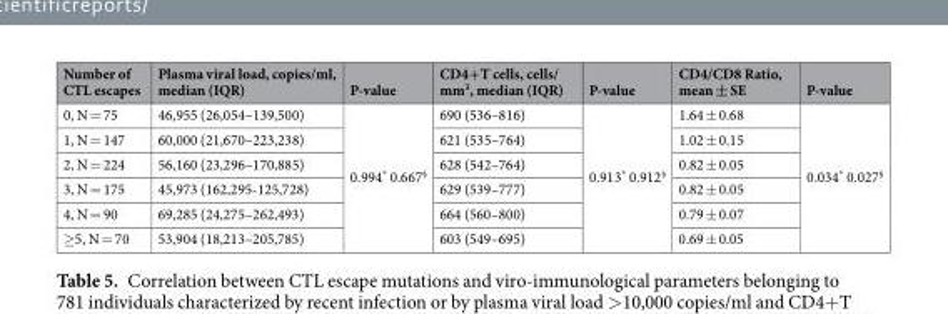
<table><thead><tr><td>Number of CTL escapes</td><td>Plasma viral load, copies/ml, median (IQR)</td><td>P-value</td><td>CD4+T cells, cells/ mm<sup>3</sup>, median (IQR)</td><td>P-value</td><td>CD4/CD8 Ratio, mean ± SE</td><td>P-value</td></tr></thead><tbody><tr><td>0, N = 75</td><td>46,955 (26,054–139,500)</td><td rowspan="6">0.994* 0.667<sup>§</sup></td><td>690 (536–816)</td><td rowspan="6">0.913* 0.912<sup>§</sup></td><td>1.64 ± 0.68</td><td rowspan="6">0.034* 0.027<sup>§</sup></td></tr><tr><td>1, N = 147</td><td>60,000 (21,670–223,238)</td><td>621 (535–764)</td><td>1.02 ± 0.15</td></tr><tr><td>2, N = 224</td><td>56,160 (23,296–170,885)</td><td>628 (542–764)</td><td>0.82 ± 0.05</td></tr><tr><td>3, N = 175</td><td>45,973 (162,295-125,728)</td><td>629 (539–777)</td><td>0.82 ± 0.05</td></tr><tr><td>4, N = 90</td><td>69,285 (24,275–262,493)</td><td>664 (560–800)</td><td>0.79 ± 0.07</td></tr><tr><td>≥5, N = 70</td><td>53,904 (18,213–205,785)</td><td>603 (549–695)</td><td>0.69 ± 0.05</td></tr></tbody></table>